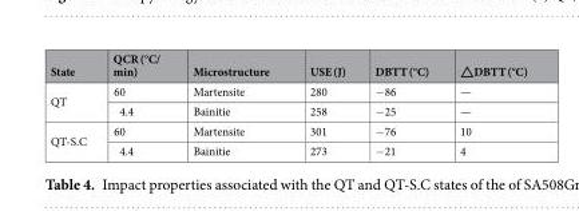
<table><thead><tr><td>State</td><td>QCR (°C/ min)</td><td>Microstructure</td><td>USE (J)</td><td>DBTT (°C)</td><td>△DBTT (°C)</td></tr></thead><tbody><tr><td rowspan="2">QT</td><td>60</td><td>Martensite</td><td>280</td><td>−86</td><td>—</td></tr><tr><td>4.4</td><td>Bainitie</td><td>258</td><td>−25</td><td>—</td></tr><tr><td rowspan="2">QT-S.C</td><td>60</td><td>Martensite</td><td>301</td><td>−76</td><td>10</td></tr><tr><td>4.4</td><td>Bainitie</td><td>273</td><td>−21</td><td>4</td></tr></tbody></table>